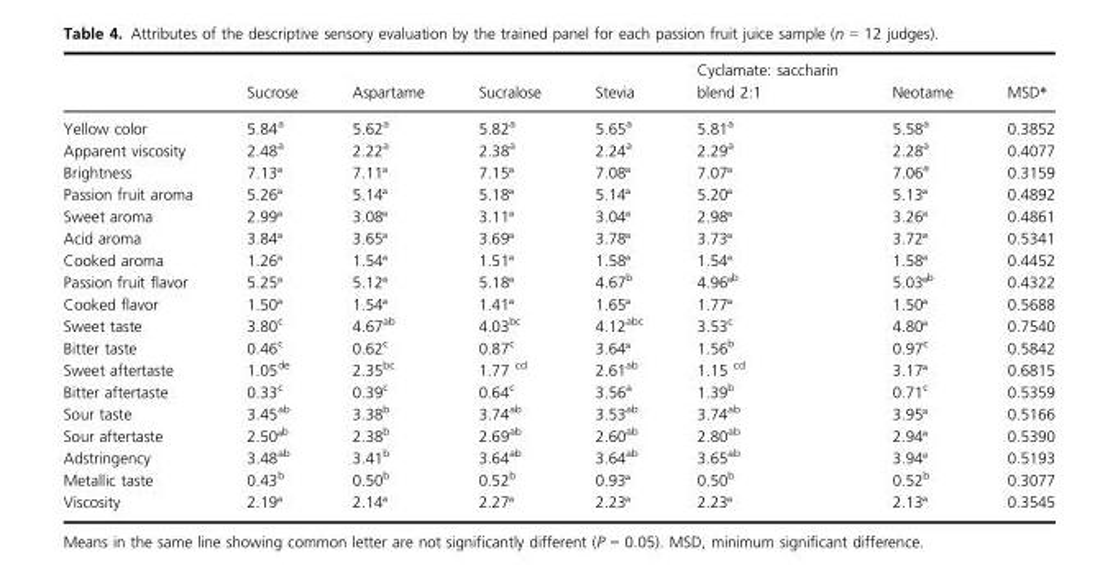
<table><thead><tr><td></td><td>Sucrose</td><td>Aspartame</td><td>Sucralose</td><td>Stevia</td><td>Cyclamate: saccharin blend 2:1</td><td>Neotame</td><td>MSD*</td></tr></thead><tbody><tr><td>Yellow color</td><td>5.84<sup>a</sup></td><td>5.62<sup>a</sup></td><td>5.82<sup>a</sup></td><td>5.65<sup>a</sup></td><td>5.81<sup>a</sup></td><td>5.58<sup>a</sup></td><td>0.3852</td></tr><tr><td>Apparent viscosity</td><td>2.48<sup>a</sup></td><td>2.22<sup>a</sup></td><td>2.38<sup>a</sup></td><td>2.24<sup>a</sup></td><td>2.29<sup>a</sup></td><td>2.28<sup>a</sup></td><td>0.4077</td></tr><tr><td>Brightness</td><td>7.13ª</td><td>7.11ª</td><td>7.15ª</td><td>7.08ª</td><td>7.07ª</td><td>7.06<sup>a</sup></td><td>0.3159</td></tr><tr><td>Passion fruit aroma</td><td>5.26ª</td><td>5.14ª</td><td>5.18ª</td><td>5.14ª</td><td>5.20ª</td><td>5.13ª</td><td>0.4892</td></tr><tr><td>Sweet aroma</td><td>2.99ª</td><td>3.08ª</td><td>3.11ª</td><td>3.04ª</td><td>2.98ª</td><td>3.26ª</td><td>0.4861</td></tr><tr><td>Acid aroma</td><td>3.84ª</td><td>3.65ª</td><td>3.69ª</td><td>3.78ª</td><td>3.73ª</td><td>3.72ª</td><td>0.5341</td></tr><tr><td>Cooked aroma</td><td>1.26ª</td><td>1.54ª</td><td>1.51ª</td><td>1.58ª</td><td>1.54ª</td><td>1.58ª</td><td>0.4452</td></tr><tr><td>Passion fruit flavor</td><td>5.25ª</td><td>5.12ª</td><td>5.18ª</td><td>4.67<sup>b</sup></td><td>4.96ª<sup>b</sup></td><td>5.03ª<sup>b</sup></td><td>0.4322</td></tr><tr><td>Cooked flavor</td><td>1.50ª</td><td>1.54ª</td><td>1.41ª</td><td>1.65ª</td><td>1.77ª</td><td>1.50ª</td><td>0.5688</td></tr><tr><td>Sweet taste</td><td>3.80<sup>c</sup></td><td>4.67<sup>ab</sup></td><td>4.03<sup>bc</sup></td><td>4.12<sup>abc</sup></td><td>3.53<sup>c</sup></td><td>4.80ª</td><td>0.7540</td></tr><tr><td>Bitter taste</td><td>0.46<sup>c</sup></td><td>0.62<sup>c</sup></td><td>0.87<sup>c</sup></td><td>3.64ª</td><td>1.56<sup>b</sup></td><td>0.97<sup>c</sup></td><td>0.5842</td></tr><tr><td>Sweet aftertaste</td><td>1.05<sup>de</sup></td><td>2.35<sup>bc</sup></td><td>1.77 <sup>cd</sup></td><td>2.61<sup>ab</sup></td><td>1.15 <sup>cd</sup></td><td>3.17ª</td><td>0.6815</td></tr><tr><td>Bitter aftertaste</td><td>0.33<sup>c</sup></td><td>0.39<sup>c</sup></td><td>0.64<sup>c</sup></td><td>3.56<sup>a</sup></td><td>1.39<sup>b</sup></td><td>0.71<sup>c</sup></td><td>0.5359</td></tr><tr><td>Sour taste</td><td>3.45<sup>ab</sup></td><td>3.38<sup>b</sup></td><td>3.74<sup>ab</sup></td><td>3.53<sup>ab</sup></td><td>3.74<sup>ab</sup></td><td>3.95ª</td><td>0.5166</td></tr><tr><td>Sour aftertaste</td><td>2.50ª<sup>b</sup></td><td>2.38<sup>b</sup></td><td>2.69<sup>ab</sup></td><td>2.60<sup>ab</sup></td><td>2.80<sup>ab</sup></td><td>2.94ª</td><td>0.5390</td></tr><tr><td>Adstringency</td><td>3.48<sup>ab</sup></td><td>3.41<sup>b</sup></td><td>3.64<sup>ab</sup></td><td>3.64<sup>ab</sup></td><td>3.65<sup>ab</sup></td><td>3.94ª</td><td>0.5193</td></tr><tr><td>Metallic taste</td><td>0.43<sup>b</sup></td><td>0.50<sup>b</sup></td><td>0.52<sup>b</sup></td><td>0.93ª</td><td>0.50<sup>b</sup></td><td>0.52<sup>b</sup></td><td>0.3077</td></tr><tr><td>Viscosity</td><td>2.19ª</td><td>2.14ª</td><td>2.27ª</td><td>2.23ª</td><td>2.23ª</td><td>2.13ª</td><td>0.3545</td></tr></tbody></table>